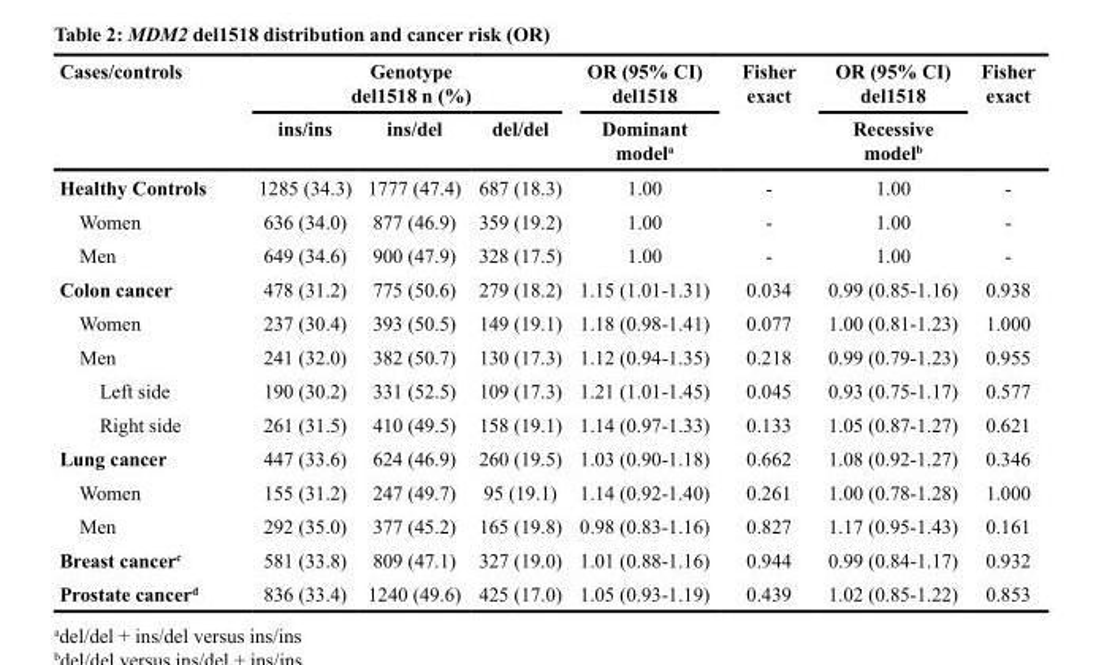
<table><thead><tr><td rowspan="2">Cases/controls</td><td colspan="3">Genotype del1518 n (%)</td><td rowspan="2">OR (95% CI) del1518 Dominant model<sup>a</sup></td><td rowspan="2">Fisher exact</td><td rowspan="2">OR (95% CI) del1518 Recessive model<sup>b</sup></td><td rowspan="2">Fisher exact</td></tr><tr><td>ins/ins</td><td>ins/del</td><td>del/del</td></tr></thead><tbody><tr><td>Healthy Controls</td><td>1285 (34.3)</td><td>1777 (47.4)</td><td>687 (18.3)</td><td>1.00</td><td>-</td><td>1.00</td><td>-</td></tr><tr><td>Women</td><td>636 (34.0)</td><td>877 (46.9)</td><td>359 (19.2)</td><td>1.00</td><td>-</td><td>1.00</td><td>-</td></tr><tr><td>Men</td><td>649 (34.6)</td><td>900 (47.9)</td><td>328 (17.5)</td><td>1.00</td><td>-</td><td>1.00</td><td>-</td></tr><tr><td>Colon cancer</td><td>478 (31.2)</td><td>775 (50.6)</td><td>279 (18.2)</td><td>1.15 (1.01-1.31)</td><td>0.034</td><td>0.99 (0.85-1.16)</td><td>0.938</td></tr><tr><td>Women</td><td>237 (30.4)</td><td>393 (50.5)</td><td>149 (19.1)</td><td>1.18 (0.98-1.41)</td><td>0.077</td><td>1.00 (0.81-1.23)</td><td>1.000</td></tr><tr><td>Men</td><td>241 (32.0)</td><td>382 (50.7)</td><td>130 (17.3)</td><td>1.12 (0.94-1.35)</td><td>0.218</td><td>0.99 (0.79-1.23)</td><td>0.955</td></tr><tr><td>Left side</td><td>190 (30.2)</td><td>331 (52.5)</td><td>109 (17.3)</td><td>1.21 (1.01-1.45)</td><td>0.045</td><td>0.93 (0.75-1.17)</td><td>0.577</td></tr><tr><td>Right side</td><td>261 (31.5)</td><td>410 (49.5)</td><td>158 (19.1)</td><td>1.14 (0.97-1.33)</td><td>0.133</td><td>1.05 (0.87-1.27)</td><td>0.621</td></tr><tr><td>Lung cancer</td><td>447 (33.6)</td><td>624 (46.9)</td><td>260 (19.5)</td><td>1.03 (0.90-1.18)</td><td>0.662</td><td>1.08 (0.92-1.27)</td><td>0.346</td></tr><tr><td>Women</td><td>155 (31.2)</td><td>247 (49.7)</td><td>95 (19.1)</td><td>1.14 (0.92-1.40)</td><td>0.261</td><td>1.00 (0.78-1.28)</td><td>1.000</td></tr><tr><td>Men</td><td>292 (35.0)</td><td>377 (45.2)</td><td>165 (19.8)</td><td>0.98 (0.83-1.16)</td><td>0.827</td><td>1.17 (0.95-1.43)</td><td>0.161</td></tr><tr><td>Breast cancer<sup>c</sup></td><td>581 (33.8)</td><td>809 (47.1)</td><td>327 (19.0)</td><td>1.01 (0.88-1.16)</td><td>0.944</td><td>0.99 (0.84-1.17)</td><td>0.932</td></tr><tr><td>Prostate cancer<sup>d</sup></td><td>836 (33.4)</td><td>1240 (49.6)</td><td>425 (17.0)</td><td>1.05 (0.93-1.19)</td><td>0.439</td><td>1.02 (0.85-1.22)</td><td>0.853</td></tr></tbody></table>